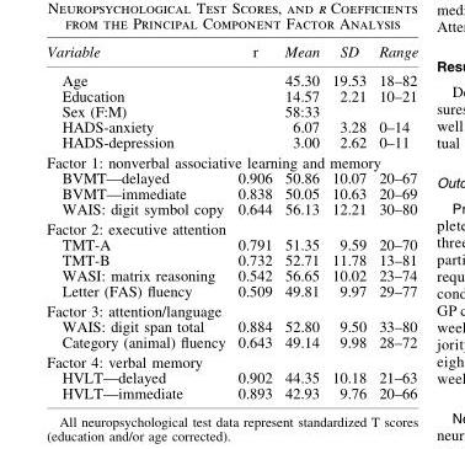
<table><thead><tr><td>Variable</td><td>r</td><td>Mean</td><td>SD</td><td>Range</td></tr></thead><tbody><tr><td>Age</td><td></td><td>45.30</td><td>19.53</td><td>18–82</td></tr><tr><td>Education</td><td></td><td>14.57</td><td>2.21</td><td>10–21</td></tr><tr><td>Sex (F:M)</td><td></td><td>58:33</td><td></td><td></td></tr><tr><td>HADS-anxiety</td><td></td><td>6.07</td><td>3.28</td><td>0–14</td></tr><tr><td>HADS-depression</td><td></td><td>3.00</td><td>2.62</td><td>0–11</td></tr><tr><td colspan="5">Factor 1: nonverbal associative learning and memory</td></tr><tr><td>BVMT—delayed</td><td>0.906</td><td>50.86</td><td>10.07</td><td>20–67</td></tr><tr><td>BVMT—immediate</td><td>0.838</td><td>50.05</td><td>10.63</td><td>20–69</td></tr><tr><td>WAIS: digit symbol copy</td><td>0.644</td><td>56.13</td><td>12.21</td><td>30–80</td></tr><tr><td colspan="5">Factor 2: executive attention</td></tr><tr><td>TMT-A</td><td>0.791</td><td>51.35</td><td>9.59</td><td>20–70</td></tr><tr><td>TMT-B</td><td>0.732</td><td>52.71</td><td>11.78</td><td>13–81</td></tr><tr><td>WASI: matrix reasoning</td><td>0.542</td><td>56.65</td><td>10.02</td><td>23–74</td></tr><tr><td>Letter (FAS) fluency</td><td>0.509</td><td>49.81</td><td>9.97</td><td>29–77</td></tr><tr><td colspan="5">Factor 3: attention/language</td></tr><tr><td>WAIS: digit span total</td><td>0.884</td><td>52.80</td><td>9.50</td><td>33–80</td></tr><tr><td>Category (animal) fluency</td><td>0.643</td><td>49.14</td><td>9.98</td><td>28–72</td></tr><tr><td colspan="5">Factor 4: verbal memory</td></tr><tr><td>HVLT—delayed</td><td>0.902</td><td>44.35</td><td>10.18</td><td>21–63</td></tr><tr><td>HVLT—immediate</td><td>0.893</td><td>42.93</td><td>9.76</td><td>20–66</td></tr></tbody></table>